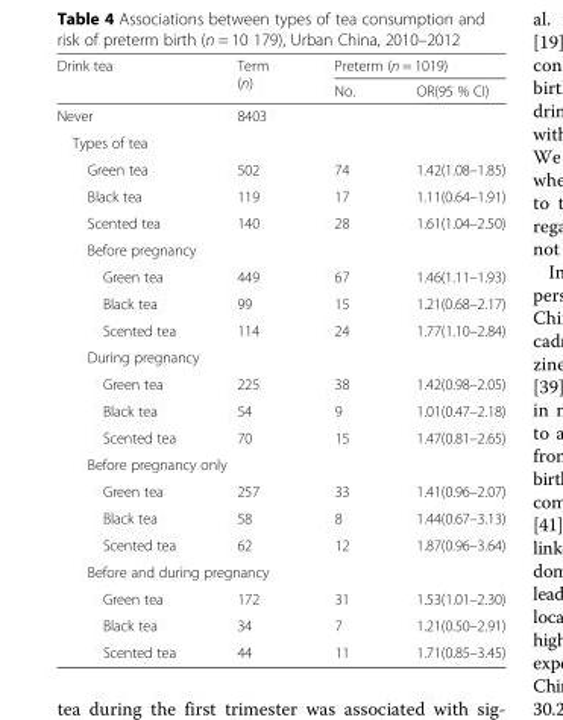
<table><thead><tr><td rowspan="2">Drink tea</td><td rowspan="2">Term (n)</td><td colspan="2">Preterm (n = 1019)</td></tr><tr><td>No.</td><td>OR(95 % CI)</td></tr></thead><tbody><tr><td>Never</td><td>8403</td><td></td><td></td></tr><tr><td colspan="4">Types of tea</td></tr><tr><td>Green tea</td><td>502</td><td>74</td><td>1.42(1.08–1.85)</td></tr><tr><td>Black tea</td><td>119</td><td>17</td><td>1.11(0.64–1.91)</td></tr><tr><td>Scented tea</td><td>140</td><td>28</td><td>1.61(1.04–2.50)</td></tr><tr><td colspan="4">Before pregnancy</td></tr><tr><td>Green tea</td><td>449</td><td>67</td><td>1.46(1.11–1.93)</td></tr><tr><td>Black tea</td><td>99</td><td>15</td><td>1.21(0.68–2.17)</td></tr><tr><td>Scented tea</td><td>114</td><td>24</td><td>1.77(1.10–2.84)</td></tr><tr><td colspan="4">During pregnancy</td></tr><tr><td>Green tea</td><td>225</td><td>38</td><td>1.42(0.98–2.05)</td></tr><tr><td>Black tea</td><td>54</td><td>9</td><td>1.01(0.47–2.18)</td></tr><tr><td>Scented tea</td><td>70</td><td>15</td><td>1.47(0.81–2.65)</td></tr><tr><td colspan="4">Before pregnancy only</td></tr><tr><td>Green tea</td><td>257</td><td>33</td><td>1.41(0.96–2.07)</td></tr><tr><td>Black tea</td><td>58</td><td>8</td><td>1.44(0.67–3.13)</td></tr><tr><td>Scented tea</td><td>62</td><td>12</td><td>1.87(0.96–3.64)</td></tr><tr><td colspan="4">Before and during pregnancy</td></tr><tr><td>Green tea</td><td>172</td><td>31</td><td>1.53(1.01–2.30)</td></tr><tr><td>Black tea</td><td>34</td><td>7</td><td>1.21(0.50–2.91)</td></tr><tr><td>Scented tea</td><td>44</td><td>11</td><td>1.71(0.85–3.45)</td></tr></tbody></table>